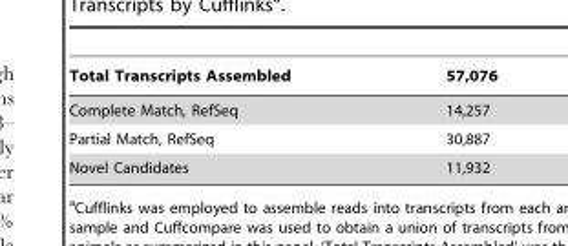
<table><thead><tr><td>Total Transcripts Assembled</td><td>57,076</td></tr></thead><tbody><tr><td>Complete Match, RefSeq</td><td>14,257</td></tr><tr><td>Partial Match, RefSeq</td><td>30,887</td></tr><tr><td>Novel Candidates</td><td>11,932</td></tr></tbody></table>